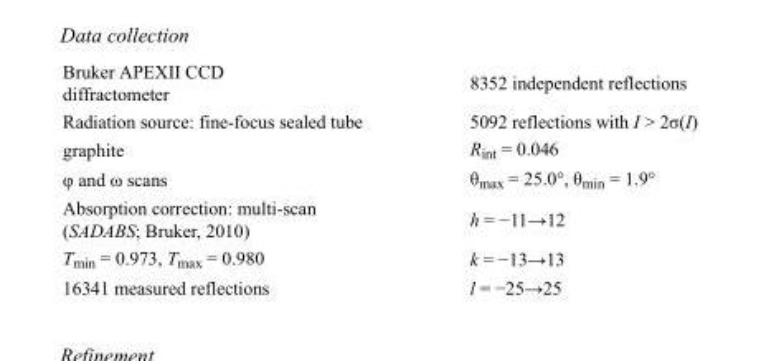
<table><tbody><tr><td>Bruker APEXII CCD diffractometer</td><td>8352 independent reflections</td></tr><tr><td>Radiation source: fine-focus sealed tube</td><td>5092 reflections with I &gt; 2σ(I)</td></tr><tr><td>graphite</td><td>R<sub>int</sub> = 0.046</td></tr><tr><td>φ and ω scans</td><td>θ<sub>max</sub> = 25.0°, θ<sub>min</sub> = 1.9°</td></tr><tr><td>Absorption correction: multi-scan (SADABS; Bruker, 2010)</td><td>h = −11→12</td></tr><tr><td>T<sub>min</sub> = 0.973, T<sub>max</sub> = 0.980</td><td>k = −13→13</td></tr><tr><td>16341 measured reflections</td><td>l = −25→25</td></tr></tbody></table>